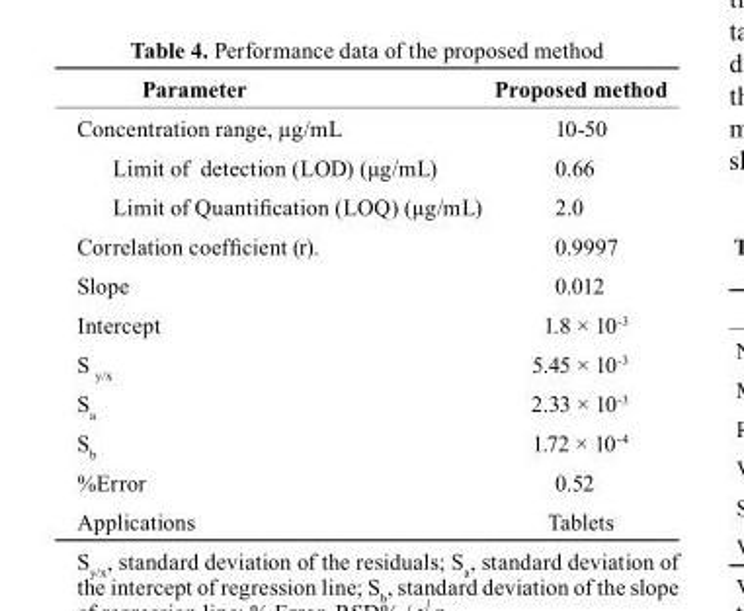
<table><thead><tr><td>Parameter</td><td>Proposed method</td></tr></thead><tbody><tr><td>Concentration range, µg/mL</td><td>10-50</td></tr><tr><td>Limit of detection (LOD) (μg/mL)</td><td>0.66</td></tr><tr><td>Limit of Quantification (LOQ) (μg/mL)</td><td>2.0</td></tr><tr><td>Correlation coefficient (r).</td><td>0.9997</td></tr><tr><td>Slope</td><td>0.012</td></tr><tr><td>Intercept</td><td>1.8 × 10<sup>-3</sup></td></tr><tr><td>S <sub>y/x</sub></td><td>5.45 × 10<sup>-3</sup></td></tr><tr><td>S<sub>a</sub></td><td>2.33 × 10<sup>-3</sup></td></tr><tr><td>S<sub>b</sub></td><td>1.72 × 10<sup>-4</sup></td></tr><tr><td>%Error</td><td>0.52</td></tr><tr><td>Applications</td><td>Tablets</td></tr></tbody></table>